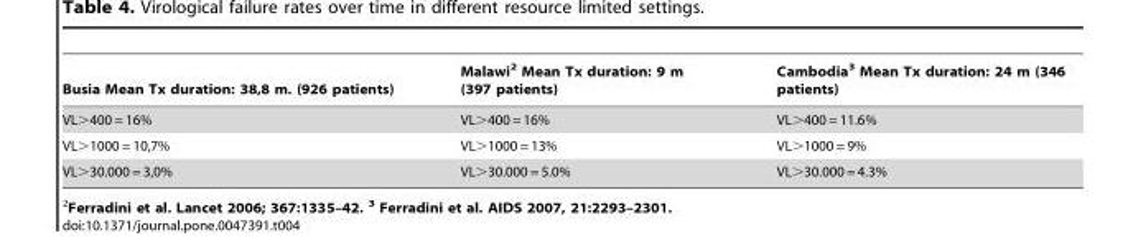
<table><thead><tr><td>Busia Mean Tx duration: 38,8 m. (926 patients)</td><td>Malawi<sup>2</sup> Mean Tx duration: 9 m (397 patients)</td><td>Cambodia<sup>3</sup> Mean Tx duration: 24 m (346 patients)</td></tr></thead><tbody><tr><td>VL&gt;400 = 16%</td><td>VL&gt;400 = 16%</td><td>VL&gt;400 = 11.6%</td></tr><tr><td>VL&gt;1000 = 10,7%</td><td>VL&gt;1000 = 13%</td><td>VL&gt;1000 = 9%</td></tr><tr><td>VL&gt;30.000 = 3,0%</td><td>VL&gt;30.000 = 5.0%</td><td>VL&gt;30.000 = 4.3%</td></tr></tbody></table>